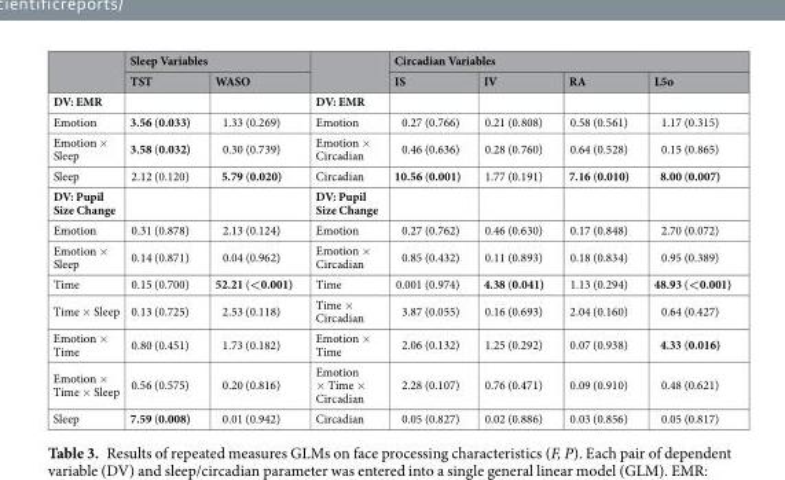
<table><thead><tr><td rowspan="2"></td><td colspan="2">Sleep Variables</td><td rowspan="2"></td><td colspan="4">Circadian Variables</td></tr><tr><td>TST</td><td>WASO</td><td>IS</td><td>IV</td><td>RA</td><td>L5o</td></tr></thead><tbody><tr><td>DV: EMR</td><td></td><td></td><td>DV: EMR</td><td></td><td></td><td></td><td></td></tr><tr><td>Emotion</td><td>3.56 (0.033)</td><td>1.33 (0.269)</td><td>Emotion</td><td>0.27 (0.766)</td><td>0.21 (0.808)</td><td>0.58 (0.561)</td><td>1.17 (0.315)</td></tr><tr><td>Emotion × Sleep</td><td>3.58 (0.032)</td><td>0.30 (0.739)</td><td>Emotion × Circadian</td><td>0.46 (0.636)</td><td>0.28 (0.760)</td><td>0.64 (0.528)</td><td>0.15 (0.865)</td></tr><tr><td>Sleep</td><td>2.12 (0.120)</td><td>5.79 (0.020)</td><td>Circadian</td><td>10.56 (0.001)</td><td>1.77 (0.191)</td><td>7.16 (0.010)</td><td>8.00 (0.007)</td></tr><tr><td>DV: Pupil Size Change</td><td></td><td></td><td>DV: Pupil Size Change</td><td></td><td></td><td></td><td></td></tr><tr><td>Emotion</td><td>0.31 (0.878)</td><td>2.13 (0.124)</td><td>Emotion</td><td>0.27 (0.762)</td><td>0.46 (0.630)</td><td>0.17 (0.848)</td><td>2.70 (0.072)</td></tr><tr><td>Emotion × Sleep</td><td>0.14 (0.871)</td><td>0.04 (0.962)</td><td>Emotion × Circadian</td><td>0.85 (0.432)</td><td>0.11 (0.893)</td><td>0.18 (0.834)</td><td>0.95 (0.389)</td></tr><tr><td>Time</td><td>0.15 (0.700)</td><td>52.21 (&lt;0.001)</td><td>Time</td><td>0.001 (0.974)</td><td>4.38 (0.041)</td><td>1.13 (0.294)</td><td>48.93 (&lt;0.001)</td></tr><tr><td>Time × Sleep</td><td>0.13 (0.725)</td><td>2.53 (0.118)</td><td>Time × Circadian</td><td>3.87 (0.055)</td><td>0.16 (0.693)</td><td>2.04 (0.160)</td><td>0.64 (0.427)</td></tr><tr><td>Emotion × Time</td><td>0.80 (0.451)</td><td>1.73 (0.182)</td><td>Emotion × Time</td><td>2.06 (0.132)</td><td>1.25 (0.292)</td><td>0.07 (0.938)</td><td>4.33 (0.016)</td></tr><tr><td>Emotion × Time × Sleep</td><td>0.56 (0.575)</td><td>0.20 (0.816)</td><td>Emotion × Time × Circadian</td><td>2.28 (0.107)</td><td>0.76 (0.471)</td><td>0.09 (0.910)</td><td>0.48 (0.621)</td></tr><tr><td>Sleep</td><td>7.59 (0.008)</td><td>0.01 (0.942)</td><td>Circadian</td><td>0.05 (0.827)</td><td>0.02 (0.886)</td><td>0.03 (0.856)</td><td>0.05 (0.817)</td></tr></tbody></table>